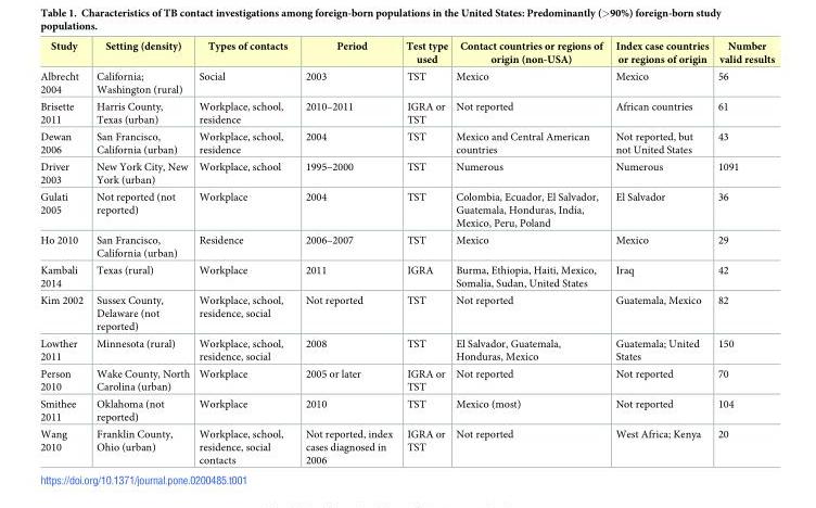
<table><thead><tr><td>Study</td><td>Setting (density)</td><td>Types of contacts</td><td>Period</td><td>Test type used</td><td>Contact countries or regions of origin (non-USA)</td><td>Index case countries or regions of origin</td><td>Number valid results</td></tr></thead><tbody><tr><td>Albrecht 2004</td><td>California; Washington (rural)</td><td>Social</td><td>2003</td><td>TST</td><td>Mexico</td><td>Mexico</td><td>56</td></tr><tr><td>Brisette 2011</td><td>Harris County, Texas (urban)</td><td>Workplace, school, residence</td><td>2010–2011</td><td>IGRA or TST</td><td>Not reported</td><td>African countries</td><td>61</td></tr><tr><td>Dewan 2006</td><td>San Francisco, California (urban)</td><td>Workplace, school, residence</td><td>2004</td><td>TST</td><td>Mexico and Central American countries</td><td>Not reported, but not United States</td><td>43</td></tr><tr><td>Driver 2003</td><td>New York City, New York (urban)</td><td>Workplace, school</td><td>1995–2000</td><td>TST</td><td>Numerous</td><td>Numerous</td><td>1091</td></tr><tr><td>Gulati 2005</td><td>Not reported (not reported)</td><td>Workplace</td><td>2004</td><td>TST</td><td>Colombia, Ecuador, El Salvador, Guatemala, Honduras, India, Mexico, Peru, Poland</td><td>El Salvador</td><td>36</td></tr><tr><td>Ho 2010</td><td>San Francisco, California (urban)</td><td>Residence</td><td>2006–2007</td><td>TST</td><td>Mexico</td><td>Mexico</td><td>29</td></tr><tr><td>Kambali 2014</td><td>Texas (rural)</td><td>Workplace</td><td>2011</td><td>IGRA</td><td>Burma, Ethiopia, Haiti, Mexico, Somalia, Sudan, United States</td><td>Iraq</td><td>42</td></tr><tr><td>Kim 2002</td><td>Sussex County, Delaware (not reported)</td><td>Workplace, school, residence, social</td><td>Not reported</td><td>TST</td><td>Not reported</td><td>Guatemala, Mexico</td><td>82</td></tr><tr><td>Lowther 2011</td><td>Minnesota (rural)</td><td>Workplace, school, residence, social</td><td>2008</td><td>TST</td><td>El Salvador, Guatemala, Honduras, Mexico</td><td>Guatemala; United States</td><td>150</td></tr><tr><td>Person 2010</td><td>Wake County, North Carolina (urban)</td><td>Workplace</td><td>2005 or later</td><td>IGRA or TST</td><td>Not reported</td><td>Not reported</td><td>70</td></tr><tr><td>Smithee 2011</td><td>Oklahoma (not reported)</td><td>Workplace</td><td>2010</td><td>TST</td><td>Mexico (most)</td><td>Not reported</td><td>104</td></tr><tr><td>Wang 2010</td><td>Franklin County, Ohio (urban)</td><td>Workplace, school, residence, social contacts</td><td>Not reported, index cases diagnosed in 2006</td><td>IGRA or TST</td><td>Not reported</td><td>West Africa; Kenya</td><td>20</td></tr></tbody></table>